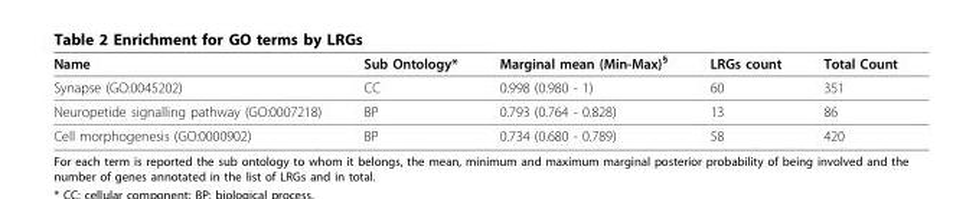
<table><thead><tr><td>Name</td><td>Sub Ontology*</td><td>Marginal mean (Min-Max)<sup>§</sup></td><td>LRGs count</td><td>Total Count</td></tr></thead><tbody><tr><td>Synapse (GO:0045202)</td><td>CC</td><td>0.998 (0.980 - 1)</td><td>60</td><td>351</td></tr><tr><td>Neuropetide signalling pathway (GO:0007218)</td><td>BP</td><td>0.793 (0.764 - 0.828)</td><td>13</td><td>86</td></tr><tr><td>Cell morphogenesis (GO:0000902)</td><td>BP</td><td>0.734 (0.680 - 0.789)</td><td>58</td><td>420</td></tr></tbody></table>